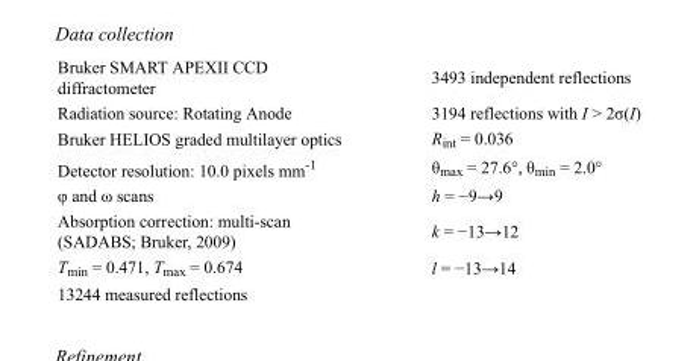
<table><tbody><tr><td>Bruker SMART APEXII CCD diffractometer</td><td>3493 independent reflections</td></tr><tr><td>Radiation source: Rotating Anode</td><td>3194 reflections with I &gt; 2σ(I)</td></tr><tr><td>Bruker HELIOS graded multilayer optics</td><td>R<sub>int</sub> = 0.036</td></tr><tr><td>Detector resolution: 10.0 pixels mm<sup>-1</sup></td><td>θ<sub>max</sub> = 27.6°, θ<sub>min</sub> = 2.0°</td></tr><tr><td>φ and ω scans</td><td>h = −9→9</td></tr><tr><td>Absorption correction: multi-scan (SADABS; Bruker, 2009)</td><td>k = −13→12</td></tr><tr><td>T<sub>min</sub> = 0.471, T<sub>max</sub> = 0.674</td><td>l = −13→14</td></tr><tr><td>13244 measured reflections</td><td></td></tr></tbody></table>